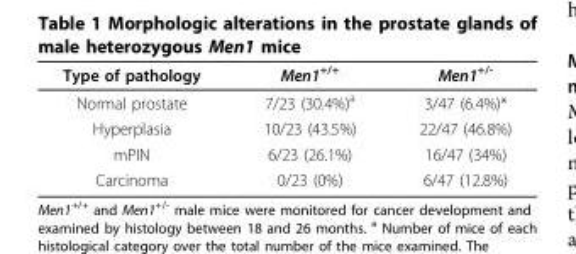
<table><thead><tr><td>Type of pathology</td><td>Men1<sup>+/+</sup></td><td>Men1<sup>+/-</sup></td></tr></thead><tbody><tr><td>Normal prostate</td><td>7/23 (30.4%)<sup>a</sup></td><td>3/47 (6.4%)*</td></tr><tr><td>Hyperplasia</td><td>10/23 (43.5%)</td><td>22/47 (46.8%)</td></tr><tr><td>mPIN</td><td>6/23 (26.1%)</td><td>16/47 (34%)</td></tr><tr><td>Carcinoma</td><td>0/23 (0%)</td><td>6/47 (12.8%)</td></tr></tbody></table>